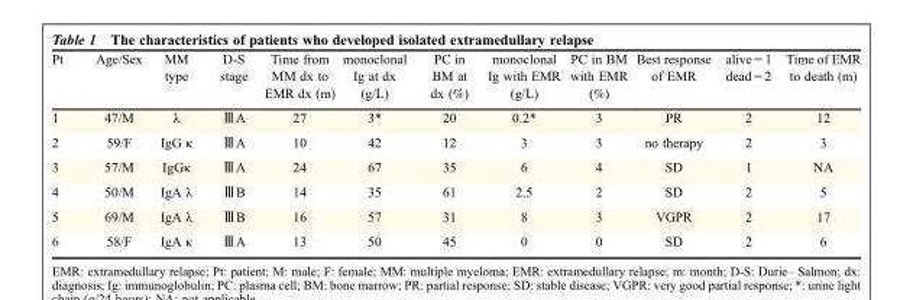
<table><thead><tr><td>Pt</td><td>Age/Sex</td><td>MM type</td><td>D-S stage</td><td>Time from MM dx to EMR dx (m)</td><td>monoclonal Ig at dx (g/L)</td><td>PC in BM at dx (%)</td><td>monoclonal Ig with EMR (g/L)</td><td>PC in BM with EMR (%)</td><td>Best response of EMR</td><td>alive = 1 dead = 2</td><td>Time of EMR to death (m)</td></tr></thead><tbody><tr><td>1</td><td>47/M</td><td>λ</td><td>ⅢA</td><td>27</td><td>3*</td><td>20</td><td>0.2*</td><td>3</td><td>PR</td><td>2</td><td>12</td></tr><tr><td>2</td><td>59/F</td><td>IgG κ</td><td>ⅢA</td><td>10</td><td>42</td><td>12</td><td>3</td><td>3</td><td>no therapy</td><td>2</td><td>3</td></tr><tr><td>3</td><td>57/M</td><td>IgGκ</td><td>ⅢA</td><td>24</td><td>67</td><td>35</td><td>6</td><td>4</td><td>SD</td><td>1</td><td>NA</td></tr><tr><td>4</td><td>50/M</td><td>IgA λ</td><td>ⅢB</td><td>14</td><td>35</td><td>61</td><td>2.5</td><td>2</td><td>SD</td><td>2</td><td>5</td></tr><tr><td>5</td><td>69/M</td><td>IgA λ</td><td>ⅢB</td><td>16</td><td>57</td><td>31</td><td>8</td><td>3</td><td>VGPR</td><td>2</td><td>17</td></tr><tr><td>6</td><td>58/F</td><td>IgA κ</td><td>ⅢA</td><td>13</td><td>50</td><td>45</td><td>0</td><td>0</td><td>SD</td><td>2</td><td>6</td></tr></tbody></table>